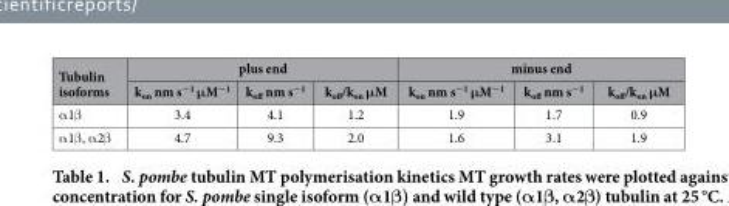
<table><thead><tr><td rowspan="2">Tubulin isoforms</td><td colspan="3">plus end</td><td colspan="3">minus end</td></tr><tr><td>k<sub>on</sub> nm s<sup>−1</sup> μM<sup>−1</sup></td><td>k<sub>off</sub> nm s<sup>−1</sup></td><td>k<sub>off</sub>/k<sub>on</sub> μM</td><td>k<sub>on</sub> nm s<sup>−1</sup> μM<sup>−1</sup></td><td>k<sub>off</sub> nm s<sup>−1</sup></td><td>k<sub>off</sub>/k<sub>on</sub> μM</td></tr></thead><tbody><tr><td>α 1β</td><td>3.4</td><td>4.1</td><td>1.2</td><td>1.9</td><td>1.7</td><td>0.9</td></tr><tr><td>α 1β , α 2β</td><td>4.7</td><td>9.3</td><td>2.0</td><td>1.6</td><td>3.1</td><td>1.9</td></tr></tbody></table>